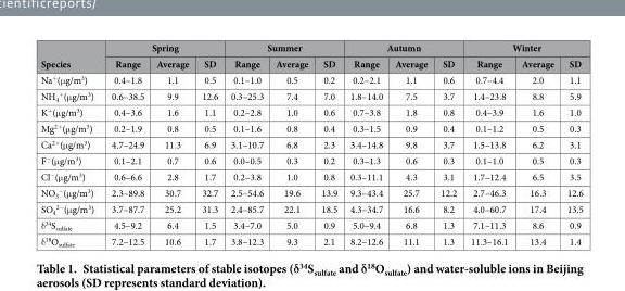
<table><thead><tr><td rowspan="2">Species</td><td colspan="3">Spring</td><td colspan="3">Summer</td><td colspan="3">Autumn</td><td colspan="3">Winter</td></tr><tr><td>Range</td><td>Average</td><td>SD</td><td>Range</td><td>Average</td><td>SD</td><td>Range</td><td>Average</td><td>SD</td><td>Range</td><td>Average</td><td>SD</td></tr></thead><tbody><tr><td>Na<sup>+</sup>(μ g/m<sup>3</sup>)</td><td>0.4–1.8</td><td>1.1</td><td>0.5</td><td>0.1–1.0</td><td>0.5</td><td>0.2</td><td>0.2–2.1</td><td>1.1</td><td>0.6</td><td>0.7–4.4</td><td>2.0</td><td>1.1</td></tr><tr><td>NH<sub>4</sub> <sup>+</sup>(μ g/m<sup>3</sup>)</td><td>0.6–38.5</td><td>9.9</td><td>12.6</td><td>0.3–25.3</td><td>7.4</td><td>7.0</td><td>1.8–14.0</td><td>7.5</td><td>3.7</td><td>1.4–23.8</td><td>8.8</td><td>5.9</td></tr><tr><td>K<sup>+</sup>(μ g/m<sup>3</sup>)</td><td>0.4–3.6</td><td>1.6</td><td>1.1</td><td>0.2–2.8</td><td>1.0</td><td>0.6</td><td>0.7–3.8</td><td>1.8</td><td>0.8</td><td>0.4–3.9</td><td>1.6</td><td>1.0</td></tr><tr><td>Mg<sup>2+</sup>(μ g/m<sup>3</sup>)</td><td>0.2–1.9</td><td>0.8</td><td>0.5</td><td>0.1–1.6</td><td>0.8</td><td>0.4</td><td>0.3–1.5</td><td>0.9</td><td>0.4</td><td>0.1–1.2</td><td>0.5</td><td>0.3</td></tr><tr><td>Ca<sup>2+</sup>(μ g/m<sup>3</sup>)</td><td>4.7–24.9</td><td>11.3</td><td>6.9</td><td>3.1–10.7</td><td>6.8</td><td>2.3</td><td>3.4–14.8</td><td>9.8</td><td>3.7</td><td>1.5–13.8</td><td>6.2</td><td>3.1</td></tr><tr><td>F<sup>−</sup>(μ g/m<sup>3</sup>)</td><td>0.1–2.1</td><td>0.7</td><td>0.6</td><td>0.0–0.5</td><td>0.3</td><td>0.2</td><td>0.3–1.3</td><td>0.6</td><td>0.3</td><td>0.1–1.0</td><td>0.5</td><td>0.3</td></tr><tr><td>Cl<sup>−</sup>(μ g/m<sup>3</sup>)</td><td>0.6–6.6</td><td>2.8</td><td>1.7</td><td>0.2–3.8</td><td>1.0</td><td>0.8</td><td>0.3–11.1</td><td>4.3</td><td>3.1</td><td>1.7–12.4</td><td>6.5</td><td>3.5</td></tr><tr><td>NO<sub>3</sub> <sup>−</sup>(μ g/m<sup>3</sup>)</td><td>2.3–89.8</td><td>30.7</td><td>32.7</td><td>2.5–54.6</td><td>19.6</td><td>13.9</td><td>9.3–43.4</td><td>25.7</td><td>12.2</td><td>2.7–46.3</td><td>16.3</td><td>12.6</td></tr><tr><td>SO<sub>4</sub> <sup>2−</sup>(μ g/m<sup>3</sup>)</td><td>3.7–87.7</td><td>25.2</td><td>31.3</td><td>2.4–85.7</td><td>22.1</td><td>18.5</td><td>4.3–34.7</td><td>16.6</td><td>8.2</td><td>4.0–60.7</td><td>17.4</td><td>13.5</td></tr><tr><td>δ <sup>34</sup>S<sub>sulfate</sub></td><td>4.5–9.2</td><td>6.4</td><td>1.5</td><td>3.4–7.0</td><td>5.0</td><td>0.9</td><td>5.0–9.4</td><td>6.8</td><td>1.3</td><td>7.1–11.3</td><td>8.6</td><td>0.9</td></tr><tr><td>δ <sup>18</sup>O<sub>sulfate</sub></td><td>7.2–12.5</td><td>10.6</td><td>1.7</td><td>3.8–12.3</td><td>9.3</td><td>2.1</td><td>8.2–12.6</td><td>11.1</td><td>1.3</td><td>11.3–16.1</td><td>13.4</td><td>1.4</td></tr></tbody></table>